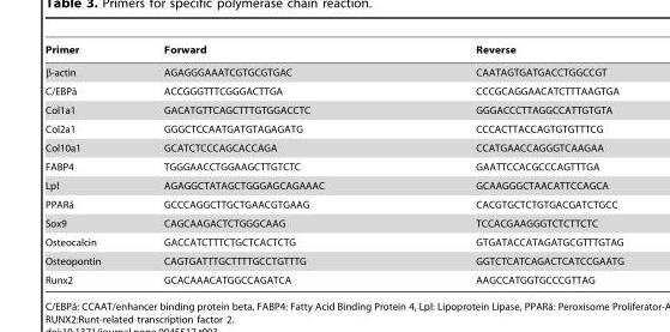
<table><thead><tr><td>Primer</td><td>Forward</td><td>Reverse</td></tr></thead><tbody><tr><td>β-actin</td><td>AGAGGGAAATCGTGCGTGAC</td><td>CAATAGTGATGACCTGGCCGT</td></tr><tr><td>C/EBPaˆ</td><td>ACCGGGTTTCGGGACTTGA</td><td>CCCGCAGGAACATCTTTAAGTGA</td></tr><tr><td>Col1a1</td><td>GACATGTTCAGCTTTGTGGACCTC</td><td>GGGACCCTTAGGCCATTGTGTA</td></tr><tr><td>Col2a1</td><td>GGGCTCCAATGATGTAGAGATG</td><td>CCCACTTACCAGTGTGTTTCG</td></tr><tr><td>Col10a1</td><td>GCATCTCCCAGCACCAGA</td><td>CCATGAACCAGGGTCAAGAA</td></tr><tr><td>FABP4</td><td>TGGGAACCTGGAAGCTTGTCTC</td><td>GAATTCCACGCCCAGTTTGA</td></tr><tr><td>Lpl</td><td>AGAGGCTATAGCTGGGAGCAGAAAC</td><td>GCAAGGGCTAACATTCCAGCA</td></tr><tr><td>PPARa˜</td><td>GCCCAGGCTTGCTGAACGTGAAG</td><td>CACGTGCTCTGTGACGATCTGCC</td></tr><tr><td>Sox9</td><td>CAGCAAGACTCTGGGCAAG</td><td>TCCACGAAGGGTCTCTTCTC</td></tr><tr><td>Osteocalcin</td><td>GACCATCTTTCTGCTCACTCTG</td><td>GTGATACCATAGATGCGTTTGTAG</td></tr><tr><td>Osteopontin</td><td>CAGTGATTTGCTTTTGCCTGTTTG</td><td>GGTCTCATCAGACTCATCCGAATG</td></tr><tr><td>Runx2</td><td>GCACAAACATGGCCAGATCA</td><td>AAGCCATGGTGCCCGTTAG</td></tr></tbody></table>